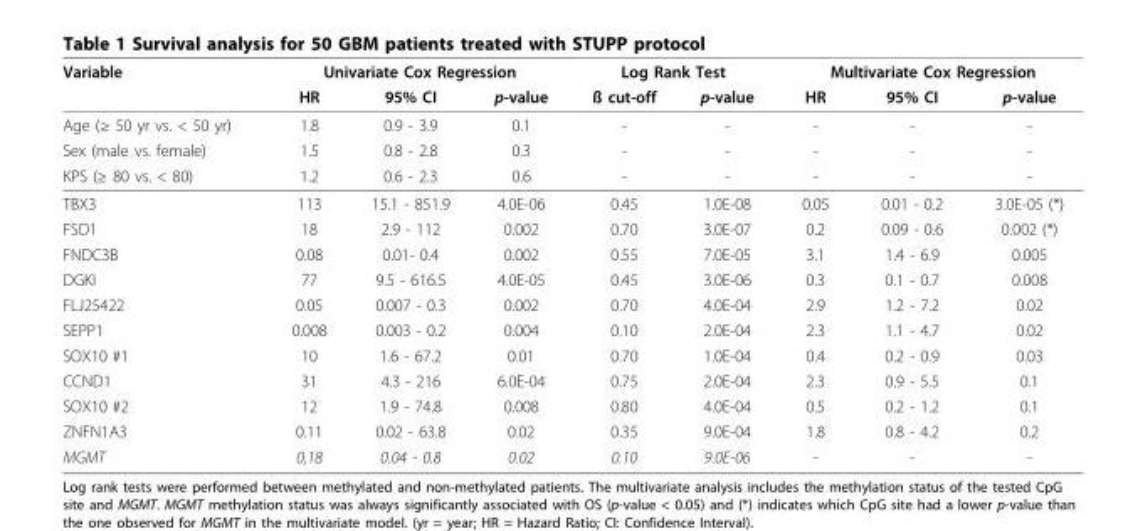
<table><thead><tr><td rowspan="2">Variable</td><td colspan="3">Univariate Cox Regression</td><td colspan="2">Log Rank Test</td><td colspan="3">Multivariate Cox Regression</td></tr><tr><td>HR</td><td>95% CI</td><td>p-value</td><td>ß cut-off</td><td>p-value</td><td>HR</td><td>95% CI</td><td>p-value</td></tr></thead><tbody><tr><td>Age (≥ 50 yr vs. &lt; 50 yr)</td><td>1.8</td><td>0.9 - 3.9</td><td>0.1</td><td>-</td><td>-</td><td>-</td><td>-</td><td>-</td></tr><tr><td>Sex (male vs. female)</td><td>1.5</td><td>0.8 - 2.8</td><td>0.3</td><td>-</td><td>-</td><td>-</td><td>-</td><td>-</td></tr><tr><td>KPS (≥ 80 vs. &lt; 80)</td><td>1.2</td><td>0.6 - 2.3</td><td>0.6</td><td>-</td><td>-</td><td>-</td><td>-</td><td>-</td></tr><tr><td>TBX3</td><td>113</td><td>15.1 - 851.9</td><td>4.0E-06</td><td>0.45</td><td>1.0E-08</td><td>0.05</td><td>0.01 - 0.2</td><td>3.0E-05 (*)</td></tr><tr><td>FSD1</td><td>18</td><td>2.9 - 112</td><td>0.002</td><td>0.70</td><td>3.0E-07</td><td>0.2</td><td>0.09 - 0.6</td><td>0.002 (*)</td></tr><tr><td>FNDC3B</td><td>0.08</td><td>0.01- 0.4</td><td>0.002</td><td>0.55</td><td>7.0E-05</td><td>3.1</td><td>1.4 - 6.9</td><td>0.005</td></tr><tr><td>DGKI</td><td>77</td><td>9.5 - 616.5</td><td>4.0E-05</td><td>0.45</td><td>3.0E-06</td><td>0.3</td><td>0.1 - 0.7</td><td>0.008</td></tr><tr><td>FLJ25422</td><td>0.05</td><td>0.007 - 0.3</td><td>0.002</td><td>0.70</td><td>4.0E-04</td><td>2.9</td><td>1.2 - 7.2</td><td>0.02</td></tr><tr><td>SEPP1</td><td>0.008</td><td>0.003 - 0.2</td><td>0.004</td><td>0.10</td><td>2.0E-04</td><td>2.3</td><td>1.1 - 4.7</td><td>0.02</td></tr><tr><td>SOX10 #1</td><td>10</td><td>1.6 - 67.2</td><td>0.01</td><td>0.70</td><td>1.0E-04</td><td>0.4</td><td>0.2 - 0.9</td><td>0.03</td></tr><tr><td>CCND1</td><td>31</td><td>4.3 - 216</td><td>6.0E-04</td><td>0.75</td><td>2.0E-04</td><td>2.3</td><td>0.9 - 5.5</td><td>0.1</td></tr><tr><td>SOX10 #2</td><td>12</td><td>1.9 - 74.8</td><td>0.008</td><td>0.80</td><td>4.0E-04</td><td>0.5</td><td>0.2 - 1.2</td><td>0.1</td></tr><tr><td>ZNFN1A3</td><td>0.11</td><td>0.02 - 63.8</td><td>0.02</td><td>0.35</td><td>9.0E-04</td><td>1.8</td><td>0.8 - 4.2</td><td>0.2</td></tr><tr><td>MGMT</td><td>0,18</td><td>0.04 - 0.8</td><td>0.02</td><td>0.10</td><td>9.0E-06</td><td>-</td><td>-</td><td>-</td></tr></tbody></table>